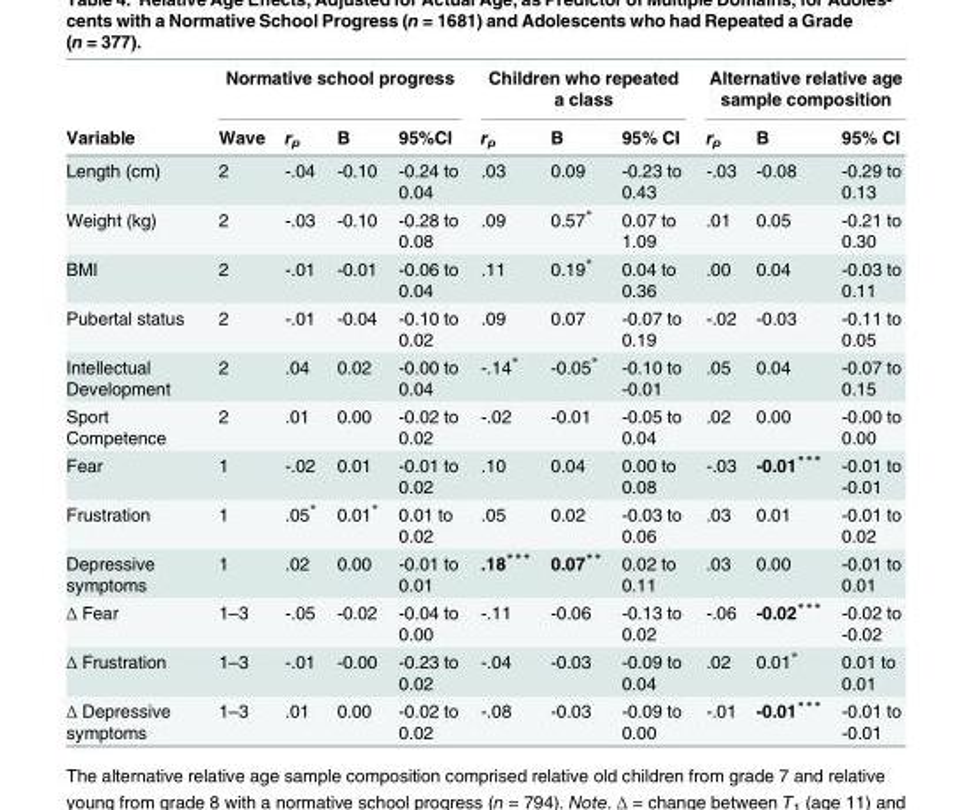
<table><thead><tr><td rowspan="2">Variable</td><td colspan="4">Normative school progress</td><td colspan="3">Children who repeated a class</td><td colspan="3">Alternative relative age sample composition</td></tr><tr><td>Wave</td><td>r<sub>p</sub></td><td>B</td><td>95%CI</td><td>r<sub>p</sub></td><td>B</td><td>95% CI</td><td>r<sub>p</sub></td><td>B</td><td>95% CI</td></tr></thead><tbody><tr><td>Length (cm)</td><td>2</td><td>-.04</td><td>-0.10</td><td>-0.24 to 0.04</td><td>.03</td><td>0.09</td><td>-0.23 to 0.43</td><td>-.03</td><td>-0.08</td><td>-0.29 to 0.13</td></tr><tr><td>Weight (kg)</td><td>2</td><td>-.03</td><td>-0.10</td><td>-0.28 to 0.08</td><td>.09</td><td>0.57*</td><td>0.07 to 1.09</td><td>.01</td><td>0.05</td><td>-0.21 to 0.30</td></tr><tr><td>BMI</td><td>2</td><td>-.01</td><td>-0.01</td><td>-0.06 to 0.04</td><td>.11</td><td>0.19*</td><td>0.04 to 0.36</td><td>.00</td><td>0.04</td><td>-0.03 to 0.11</td></tr><tr><td>Pubertal status</td><td>2</td><td>-.01</td><td>-0.04</td><td>-0.10 to 0.02</td><td>.09</td><td>0.07</td><td>-0.07 to 0.19</td><td>-.02</td><td>-0.03</td><td>-0.11 to 0.05</td></tr><tr><td>Intellectual Development</td><td>2</td><td>.04</td><td>0.02</td><td>-0.00 to 0.04</td><td>-.14*</td><td>-0.05*</td><td>-0.10 to -0.01</td><td>.05</td><td>0.04</td><td>-0.07 to 0.15</td></tr><tr><td>Sport Competence</td><td>2</td><td>.01</td><td>0.00</td><td>-0.02 to 0.02</td><td>-.02</td><td>-0.01</td><td>-0.05 to 0.04</td><td>.02</td><td>0.00</td><td>-0.00 to 0.00</td></tr><tr><td>Fear</td><td>1</td><td>-.02</td><td>0.01</td><td>-0.01 to 0.02</td><td>.10</td><td>0.04</td><td>0.00 to 0.08</td><td>-.03</td><td>-0.01***</td><td>-0.01 to -0.01</td></tr><tr><td>Frustration</td><td>1</td><td>.05*</td><td>0.01*</td><td>0.01 to 0.02</td><td>.05</td><td>0.02</td><td>-0.03 to 0.06</td><td>.03</td><td>0.01</td><td>-0.01 to 0.02</td></tr><tr><td>Depressive symptoms</td><td>1</td><td>.02</td><td>0.00</td><td>-0.01 to 0.01</td><td>.18***</td><td>0.07**</td><td>0.02 to 0.11</td><td>.03</td><td>0.00</td><td>-0.01 to 0.01</td></tr><tr><td>Δ Fear</td><td>1–3</td><td>-.05</td><td>-0.02</td><td>-0.04 to 0.00</td><td>-.11</td><td>-0.06</td><td>-0.13 to 0.02</td><td>-.06</td><td>-0.02***</td><td>-0.02 to -0.02</td></tr><tr><td>Δ Frustration</td><td>1–3</td><td>-.01</td><td>-0.00</td><td>-0.23 to 0.02</td><td>-.04</td><td>-0.03</td><td>-0.09 to 0.04</td><td>.02</td><td>0.01*</td><td>0.01 to 0.01</td></tr><tr><td>Δ Depressive symptoms</td><td>1–3</td><td>.01</td><td>0.00</td><td>-0.02 to 0.02</td><td>-.08</td><td>-0.03</td><td>-0.09 to 0.00</td><td>-.01</td><td>-0.01***</td><td>-0.01 to -0.01</td></tr></tbody></table>